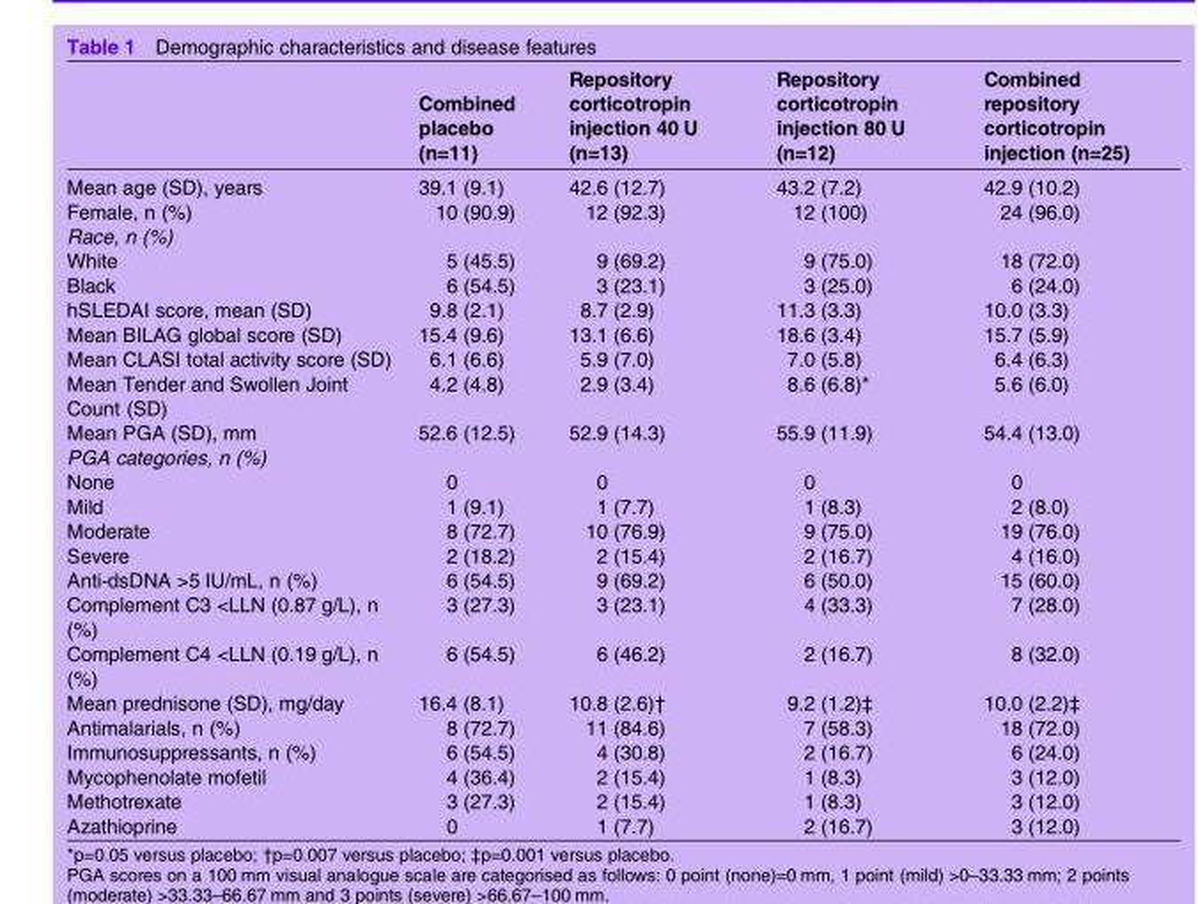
<table><thead><tr><td></td><td>Combined placebo (n=11)</td><td>Repository corticotropin injection 40 U (n=13)</td><td>Repository corticotropin injection 80 U (n=12)</td><td>Combined repository corticotropin injection (n=25)</td></tr></thead><tbody><tr><td>Mean age (SD), years</td><td>39.1 (9.1)</td><td>42.6 (12.7)</td><td>43.2 (7.2)</td><td>42.9 (10.2)</td></tr><tr><td>Female, n (%)</td><td>10 (90.9)</td><td>12 (92.3)</td><td>12 (100)</td><td>24 (96.0)</td></tr><tr><td colspan="5">Race, n (%)</td></tr><tr><td>White</td><td>5 (45.5)</td><td>9 (69.2)</td><td>9 (75.0)</td><td>18 (72.0)</td></tr><tr><td>Black</td><td>6 (54.5)</td><td>3 (23.1)</td><td>3 (25.0)</td><td>6 (24.0)</td></tr><tr><td>hSLEDAI score, mean (SD)</td><td>9.8 (2.1)</td><td>8.7 (2.9)</td><td>11.3 (3.3)</td><td>10.0 (3.3)</td></tr><tr><td>Mean BILAG global score (SD)</td><td>15.4 (9.6)</td><td>13.1 (6.6)</td><td>18.6 (3.4)</td><td>15.7 (5.9)</td></tr><tr><td>Mean CLASI total activity score (SD)</td><td>6.1 (6.6)</td><td>5.9 (7.0)</td><td>7.0 (5.8)</td><td>6.4 (6.3)</td></tr><tr><td>Mean Tender and Swollen Joint Count (SD)</td><td>4.2 (4.8)</td><td>2.9 (3.4)</td><td>8.6 (6.8)*</td><td>5.6 (6.0)</td></tr><tr><td>Mean PGA (SD), mm</td><td>52.6 (12.5)</td><td>52.9 (14.3)</td><td>55.9 (11.9)</td><td>54.4 (13.0)</td></tr><tr><td colspan="5">PGA categories, n (%)</td></tr><tr><td>None</td><td>0</td><td>0</td><td>0</td><td>0</td></tr><tr><td>Mild</td><td>1 (9.1)</td><td>1 (7.7)</td><td>1 (8.3)</td><td>2 (8.0)</td></tr><tr><td>Moderate</td><td>8 (72.7)</td><td>10 (76.9)</td><td>9 (75.0)</td><td>19 (76.0)</td></tr><tr><td>Severe</td><td>2 (18.2)</td><td>2 (15.4)</td><td>2 (16.7)</td><td>4 (16.0)</td></tr><tr><td>Anti-dsDNA &gt;5 IU/mL, n (%)</td><td>6 (54.5)</td><td>9 (69.2)</td><td>6 (50.0)</td><td>15 (60.0)</td></tr><tr><td>Complement C3 &lt;LLN (0.87 g/L), n (%)</td><td>3 (27.3)</td><td>3 (23.1)</td><td>4 (33.3)</td><td>7 (28.0)</td></tr><tr><td>Complement C4 &lt;LLN (0.19 g/L), n (%)</td><td>6 (54.5)</td><td>6 (46.2)</td><td>2 (16.7)</td><td>8 (32.0)</td></tr><tr><td>Mean prednisone (SD), mg/day</td><td>16.4 (8.1)</td><td>10.8 (2.6)†</td><td>9.2 (1.2)‡</td><td>10.0 (2.2)‡</td></tr><tr><td>Antimalarials, n (%)</td><td>8 (72.7)</td><td>11 (84.6)</td><td>7 (58.3)</td><td>18 (72.0)</td></tr><tr><td>Immunosuppressants, n (%)</td><td>6 (54.5)</td><td>4 (30.8)</td><td>2 (16.7)</td><td>6 (24.0)</td></tr><tr><td>Mycophenolate mofetil</td><td>4 (36.4)</td><td>2 (15.4)</td><td>1 (8.3)</td><td>3 (12.0)</td></tr><tr><td>Methotrexate</td><td>3 (27.3)</td><td>2 (15.4)</td><td>1 (8.3)</td><td>3 (12.0)</td></tr><tr><td>Azathioprine</td><td>0</td><td>1 (7.7)</td><td>2 (16.7)</td><td>3 (12.0)</td></tr></tbody></table>